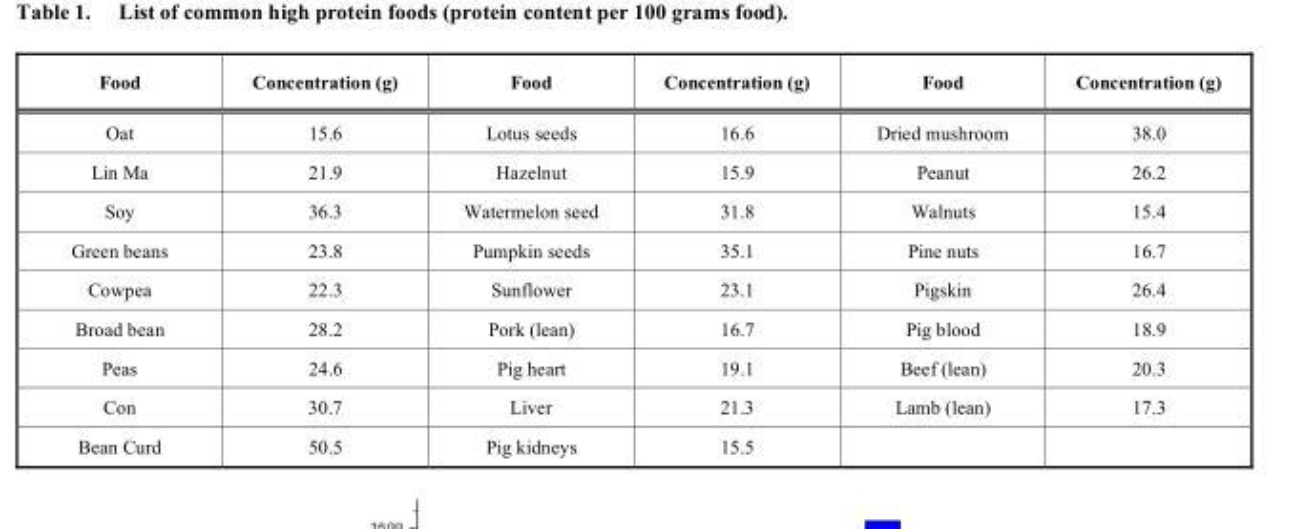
<table><thead><tr><td>Food</td><td>Concentration (g)</td><td>Food</td><td>Concentration (g)</td><td>Food</td><td>Concentration (g)</td></tr></thead><tbody><tr><td>Oat</td><td>15.6</td><td>Lotus seeds</td><td>16.6</td><td>Dried mushroom</td><td>38.0</td></tr><tr><td>Lin Ma</td><td>21.9</td><td>Hazelnut</td><td>15.9</td><td>Peanut</td><td>26.2</td></tr><tr><td>Soy</td><td>36.3</td><td>Watermelon seed</td><td>31.8</td><td>Walnuts</td><td>15.4</td></tr><tr><td>Green beans</td><td>23.8</td><td>Pumpkin seeds</td><td>35.1</td><td>Pine nuts</td><td>16.7</td></tr><tr><td>Cowpea</td><td>22.3</td><td>Sunflower</td><td>23.1</td><td>Pigskin</td><td>26.4</td></tr><tr><td>Broad bean</td><td>28.2</td><td>Pork (lean)</td><td>16.7</td><td>Pig blood</td><td>18.9</td></tr><tr><td>Peas</td><td>24.6</td><td>Pig heart</td><td>19.1</td><td>Beef (lean)</td><td>20.3</td></tr><tr><td>Con</td><td>30.7</td><td>Liver</td><td>21.3</td><td>Lamb (lean)</td><td>17.3</td></tr><tr><td>Bean Curd</td><td>50.5</td><td>Pig kidneys</td><td>15.5</td><td></td><td></td></tr></tbody></table>